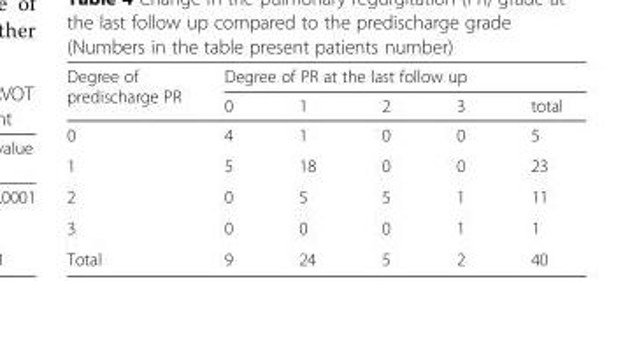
<table><thead><tr><td rowspan="2">Degree of predischarge PR</td><td colspan="5">Degree of PR at the last follow up</td></tr><tr><td>0</td><td>1</td><td>2</td><td>3</td><td>total</td></tr></thead><tbody><tr><td>0</td><td>4</td><td>1</td><td>0</td><td>0</td><td>5</td></tr><tr><td>1</td><td>5</td><td>18</td><td>0</td><td>0</td><td>23</td></tr><tr><td>2</td><td>0</td><td>5</td><td>5</td><td>1</td><td>11</td></tr><tr><td>3</td><td>0</td><td>0</td><td>0</td><td>1</td><td>1</td></tr><tr><td>Total</td><td>9</td><td>24</td><td>5</td><td>2</td><td>40</td></tr></tbody></table>